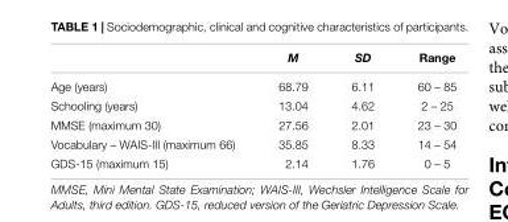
<table><thead><tr><td></td><td>M</td><td>SD</td><td>Range</td></tr></thead><tbody><tr><td>Age (years)</td><td>68.79</td><td>6.11</td><td>60 – 85</td></tr><tr><td>Schooling (years)</td><td>13.04</td><td>4.62</td><td>2 – 25</td></tr><tr><td>MMSE (maximum 30)</td><td>27.56</td><td>2.01</td><td>23 – 30</td></tr><tr><td>Vocabulary – WAIS-III (maximum 66)</td><td>35.85</td><td>8.33</td><td>14 – 54</td></tr><tr><td>GDS-15 (maximum 15)</td><td>2.14</td><td>1.76</td><td>0 – 5</td></tr></tbody></table>